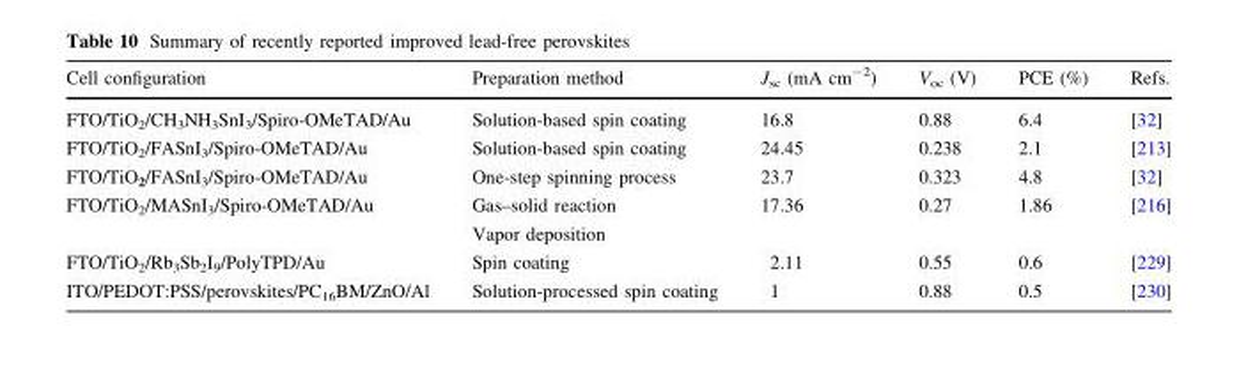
<table><thead><tr><td>Cell configuration</td><td>Preparation method</td><td>J<sub>sc</sub> (mA cm<sup>-2</sup>)</td><td>V<sub>oc</sub> (V)</td><td>PCE (%)</td><td>Refs.</td></tr></thead><tbody><tr><td>FTO/TiO<sub>2</sub>/CH<sub>3</sub>NH<sub>3</sub>SnI<sub>3</sub>/Spiro-OMeTAD/Au</td><td>Solution-based spin coating</td><td>16.8</td><td>0.88</td><td>6.4</td><td>[32]</td></tr><tr><td>FTO/TiO<sub>2</sub>/FASnI<sub>3</sub>/Spiro-OMeTAD/Au</td><td>Solution-based spin coating</td><td>24.45</td><td>0.238</td><td>2.1</td><td>[213]</td></tr><tr><td>FTO/TiO<sub>2</sub>/FASnI<sub>3</sub>/Spiro-OMeTAD/Au</td><td>One-step spinning process</td><td>23.7</td><td>0.323</td><td>4.8</td><td>[32]</td></tr><tr><td>FTO/TiO<sub>2</sub>/MASnI<sub>3</sub>/Spiro-OMeTAD/Au</td><td>Gas–solid reaction Vapor deposition</td><td>17.36</td><td>0.27</td><td>1.86</td><td>[216]</td></tr><tr><td>FTO/TiO<sub>2</sub>/Rb<sub>3</sub>Sb<sub>2</sub>I<sub>9</sub>/PolyTPD/Au</td><td>Spin coating</td><td>2.11</td><td>0.55</td><td>0.6</td><td>[229]</td></tr><tr><td>ITO/PEDOT:PSS/perovskites/PC<sub>16</sub>BM/ZnO/Al</td><td>Solution-processed spin coating</td><td>1</td><td>0.88</td><td>0.5</td><td>[230]</td></tr></tbody></table>